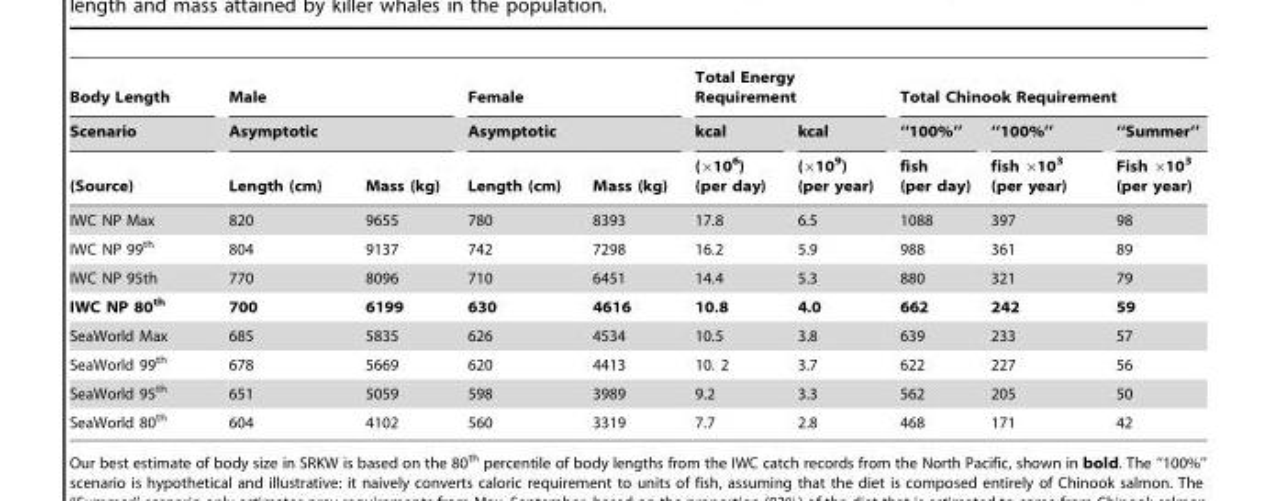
<table><thead><tr><td rowspan="3">Body Length Scenario (Source)</td><td rowspan="2" colspan="2">Male Asymptotic</td><td rowspan="2" colspan="2">Female Asymptotic</td><td colspan="2">Total Energy Requirement</td><td colspan="3">Total Chinook Requirement</td></tr><tr><td rowspan="2">kcal (×10<sup>6</sup>) (per day)</td><td rowspan="2">kcal (×10<sup>9</sup>) (per year)</td><td rowspan="2">‘‘100%’’ fish (per day)</td><td rowspan="2">‘‘100%’’ fish 6103 (per year)</td><td rowspan="2">‘‘Summer’’ Fish 6103 (per year)</td></tr><tr><td>Length (cm)</td><td>Mass (kg)</td><td>Length (cm)</td><td>Mass (kg)</td></tr></thead><tbody><tr><td>IWC NP Max</td><td>820</td><td>9655</td><td>780</td><td>8393</td><td>17.8</td><td>6.5</td><td>1088</td><td>397</td><td>98</td></tr><tr><td>IWC NP 99<sup>th</sup></td><td>804</td><td>9137</td><td>742</td><td>7298</td><td>16.2</td><td>5.9</td><td>988</td><td>361</td><td>89</td></tr><tr><td>IWC NP 95th</td><td>770</td><td>8096</td><td>710</td><td>6451</td><td>14.4</td><td>5.3</td><td>880</td><td>321</td><td>79</td></tr><tr><td>IWC NP 80<sup>th</sup></td><td>700</td><td>6199</td><td>630</td><td>4616</td><td>10.8</td><td>4.0</td><td>662</td><td>242</td><td>59</td></tr><tr><td>SeaWorld Max</td><td>685</td><td>5835</td><td>626</td><td>4534</td><td>10.5</td><td>3.8</td><td>639</td><td>233</td><td>57</td></tr><tr><td>SeaWorld 99<sup>th</sup></td><td>678</td><td>5669</td><td>620</td><td>4413</td><td>10. 2</td><td>3.7</td><td>622</td><td>227</td><td>56</td></tr><tr><td>SeaWorld 95<sup>th</sup></td><td>651</td><td>5059</td><td>598</td><td>3989</td><td>9.2</td><td>3.3</td><td>562</td><td>205</td><td>50</td></tr><tr><td>SeaWorld 80<sup>th</sup></td><td>604</td><td>4102</td><td>560</td><td>3319</td><td>7.7</td><td>2.8</td><td>468</td><td>171</td><td>42</td></tr></tbody></table>